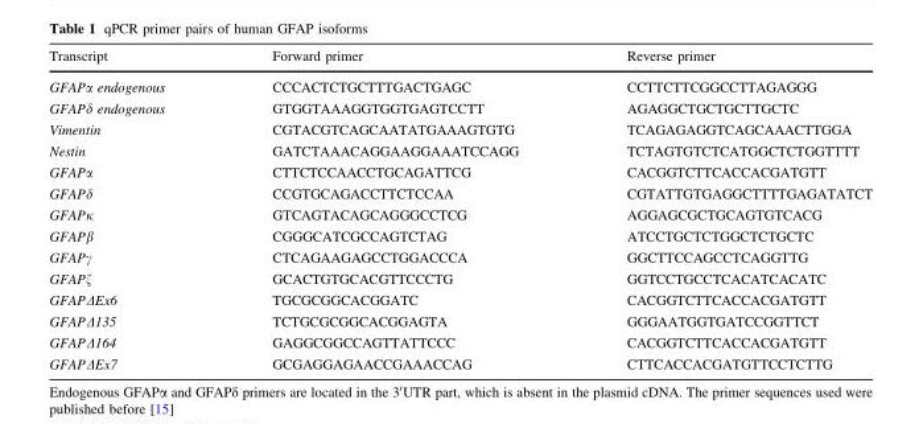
<table><thead><tr><td>Transcript</td><td>Forward primer</td><td>Reverse primer</td></tr></thead><tbody><tr><td>GFAPα endogenous</td><td>CCCACTCTGCTTTGACTGAGC</td><td>CCTTCTTCGGCCTTAGAGGG</td></tr><tr><td>GFAPδ endogenous</td><td>GTGGTAAAGGTGGTGAGTCCTT</td><td>AGAGGCTGCTGCTTGCTC</td></tr><tr><td>Vimentin</td><td>CGTACGTCAGCAATATGAAAGTGTG</td><td>TCAGAGAGGTCAGCAAACTTGGA</td></tr><tr><td>Nestin</td><td>GATCTAAACAGGAAGGAAATCCAGG</td><td>TCTAGTGTCTCATGGCTCTGGTTTT</td></tr><tr><td>GFAPα</td><td>CTTCTCCAACCTGCAGATTCG</td><td>CACGGTCTTCACCACGATGTT</td></tr><tr><td>GFAPδ</td><td>CCGTGCAGACCTTCTCCAA</td><td>CGTATTGTGAGGCTTTTGAGATATCT</td></tr><tr><td>GFAPκ</td><td>GTCAGTACAGCAGGGCCTCG</td><td>AGGAGCGCTGCAGTGTCACG</td></tr><tr><td>GFAPβ</td><td>CGGGCATCGCCAGTCTAG</td><td>ATCCTGCTCTGGCTCTGCTC</td></tr><tr><td>GFAPγ</td><td>CTCAGAAGAGCCTGGACCCA</td><td>GGCTTCCAGCCTCAGGTTG</td></tr><tr><td>GFAPζ</td><td>GCACTGTGCACGTTCCCTG</td><td>GGTCCTGCCTCACATCACATC</td></tr><tr><td>GFAPΔEx6</td><td>TGCGCGGCACGGATC</td><td>CACGGTCTTCACCACGATGTT</td></tr><tr><td>GFAPΔ135</td><td>TCTGCGCGGCACGGAGTA</td><td>GGGAATGGTGATCCGGTTCT</td></tr><tr><td>GFAPΔ164</td><td>GAGGCGGCCAGTTATTCCC</td><td>CACGGTCTTCACCACGATGTT</td></tr><tr><td>GFAPΔEx7</td><td>GCGAGGAGAACCGAAACCAG</td><td>CTTCACCACGATGTTCCTCTTG</td></tr></tbody></table>